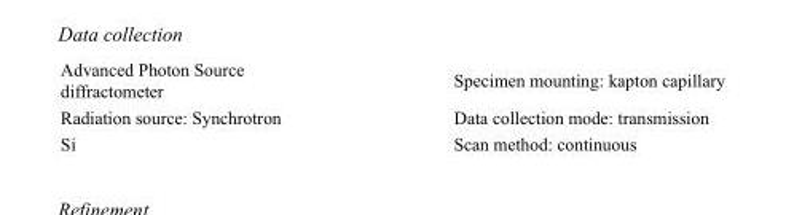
<table><tbody><tr><td>Advanced Photon Source diffractometer</td><td>Specimen mounting: kapton capillary</td></tr><tr><td>Radiation source: Synchrotron</td><td>Data collection mode: transmission</td></tr><tr><td>Si</td><td>Scan method: continuous</td></tr></tbody></table>